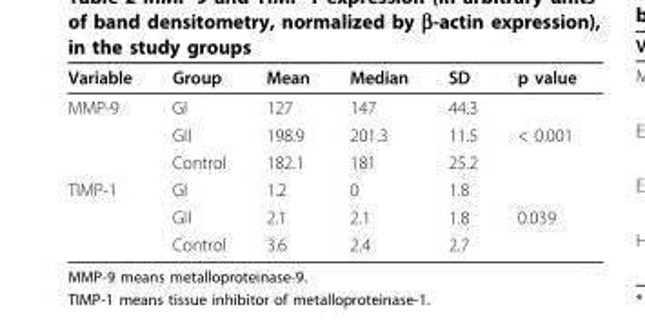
<table><thead><tr><td>Variable</td><td>Group</td><td>Mean</td><td>Median</td><td>SD</td><td>p value</td></tr></thead><tbody><tr><td rowspan="3">MMP-9</td><td>GI</td><td>127</td><td>147</td><td>44.3</td><td></td></tr><tr><td>GII</td><td>198.9</td><td>201.3</td><td>11.5</td><td>&lt; 0.001</td></tr><tr><td>Control</td><td>182.1</td><td>181</td><td>25.2</td><td></td></tr><tr><td rowspan="3">TIMP-1</td><td>GI</td><td>1.2</td><td>0</td><td>1.8</td><td></td></tr><tr><td>GII</td><td>2.1</td><td>2.1</td><td>1.8</td><td>0.039</td></tr><tr><td>Control</td><td>3.6</td><td>2.4</td><td>2.7</td><td></td></tr></tbody></table>